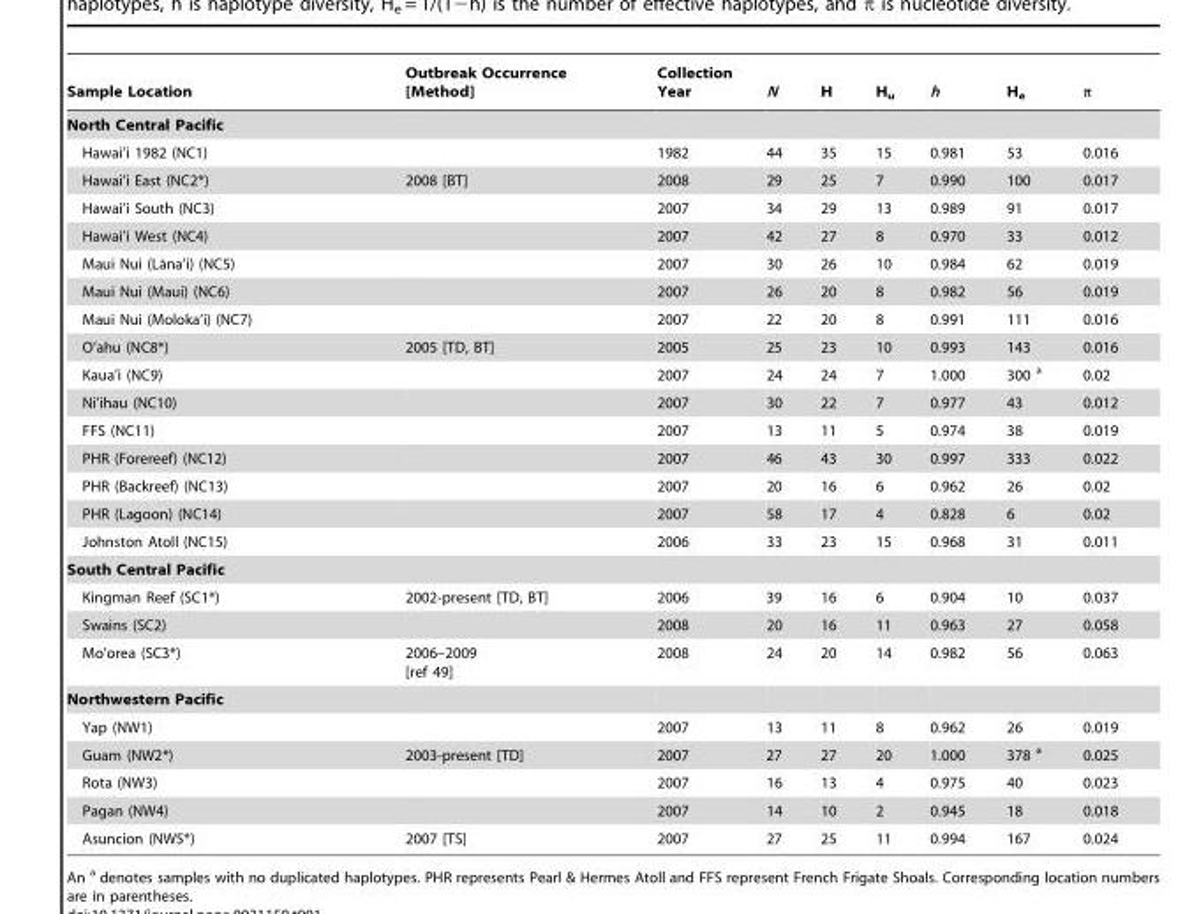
<table><thead><tr><td>Sample Location</td><td>Outbreak Occurrence [Method]</td><td>Collection Year</td><td>N</td><td>H</td><td>H<sub>u</sub></td><td>h</td><td>H<sub>e</sub></td><td>π</td></tr></thead><tbody><tr><td colspan="9">North Central Pacific</td></tr><tr><td>Hawai’i 1982 (NC1)</td><td></td><td>1982</td><td>44</td><td>35</td><td>15</td><td>0.981</td><td>53</td><td>0.016</td></tr><tr><td>Hawai’i East (NC2*)</td><td>2008 [BT]</td><td>2008</td><td>29</td><td>25</td><td>7</td><td>0.990</td><td>100</td><td>0.017</td></tr><tr><td>Hawai’i South (NC3)</td><td></td><td>2007</td><td>34</td><td>29</td><td>13</td><td>0.989</td><td>91</td><td>0.017</td></tr><tr><td>Hawai’i West (NC4)</td><td></td><td>2007</td><td>42</td><td>27</td><td>8</td><td>0.970</td><td>33</td><td>0.012</td></tr><tr><td>Maui Nui (La¯na’i) (NC5)</td><td></td><td>2007</td><td>30</td><td>26</td><td>10</td><td>0.984</td><td>62</td><td>0.019</td></tr><tr><td>Maui Nui (Maui) (NC6)</td><td></td><td>2007</td><td>26</td><td>20</td><td>8</td><td>0.982</td><td>56</td><td>0.019</td></tr><tr><td>Maui Nui (Moloka’i) (NC7)</td><td></td><td>2007</td><td>22</td><td>20</td><td>8</td><td>0.991</td><td>111</td><td>0.016</td></tr><tr><td>O’ahu (NC8*)</td><td>2005 [TD, BT]</td><td>2005</td><td>25</td><td>23</td><td>10</td><td>0.993</td><td>143</td><td>0.016</td></tr><tr><td>Kaua’i (NC9)</td><td></td><td>2007</td><td>24</td><td>24</td><td>7</td><td>1.000</td><td>300 <sup>a</sup></td><td>0.02</td></tr><tr><td>Ni’ihau (NC10)</td><td></td><td>2007</td><td>30</td><td>22</td><td>7</td><td>0.977</td><td>43</td><td>0.012</td></tr><tr><td>FFS (NC11)</td><td></td><td>2007</td><td>13</td><td>11</td><td>5</td><td>0.974</td><td>38</td><td>0.019</td></tr><tr><td>PHR (Forereef) (NC12)</td><td></td><td>2007</td><td>46</td><td>43</td><td>30</td><td>0.997</td><td>333</td><td>0.022</td></tr><tr><td>PHR (Backreef) (NC13)</td><td></td><td>2007</td><td>20</td><td>16</td><td>6</td><td>0.962</td><td>26</td><td>0.02</td></tr><tr><td>PHR (Lagoon) (NC14)</td><td></td><td>2007</td><td>58</td><td>17</td><td>4</td><td>0.828</td><td>6</td><td>0.02</td></tr><tr><td>Johnston Atoll (NC15)</td><td></td><td>2006</td><td>33</td><td>23</td><td>15</td><td>0.968</td><td>31</td><td>0.011</td></tr><tr><td colspan="9">South Central Pacific</td></tr><tr><td>Kingman Reef (SC1*)</td><td>2002-present [TD, BT]</td><td>2006</td><td>39</td><td>16</td><td>6</td><td>0.904</td><td>10</td><td>0.037</td></tr><tr><td>Swains (SC2)</td><td></td><td>2008</td><td>20</td><td>16</td><td>11</td><td>0.963</td><td>27</td><td>0.058</td></tr><tr><td>Mo’orea (SC3*)</td><td>2006–2009 [ref 49]</td><td>2008</td><td>24</td><td>20</td><td>14</td><td>0.982</td><td>56</td><td>0.063</td></tr><tr><td colspan="9">Northwestern Pacific</td></tr><tr><td>Yap (NW1)</td><td></td><td>2007</td><td>13</td><td>11</td><td>8</td><td>0.962</td><td>26</td><td>0.019</td></tr><tr><td>Guam (NW2*)</td><td>2003-present [TD]</td><td>2007</td><td>27</td><td>27</td><td>20</td><td>1.000</td><td>378 <sup>a</sup></td><td>0.025</td></tr><tr><td>Rota (NW3)</td><td></td><td>2007</td><td>16</td><td>13</td><td>4</td><td>0.975</td><td>40</td><td>0.023</td></tr><tr><td>Pagan (NW4)</td><td></td><td>2007</td><td>14</td><td>10</td><td>2</td><td>0.945</td><td>18</td><td>0.018</td></tr><tr><td>Asuncion (NW5*)</td><td>2007 [TS]</td><td>2007</td><td>27</td><td>25</td><td>11</td><td>0.994</td><td>167</td><td>0.024</td></tr></tbody></table>